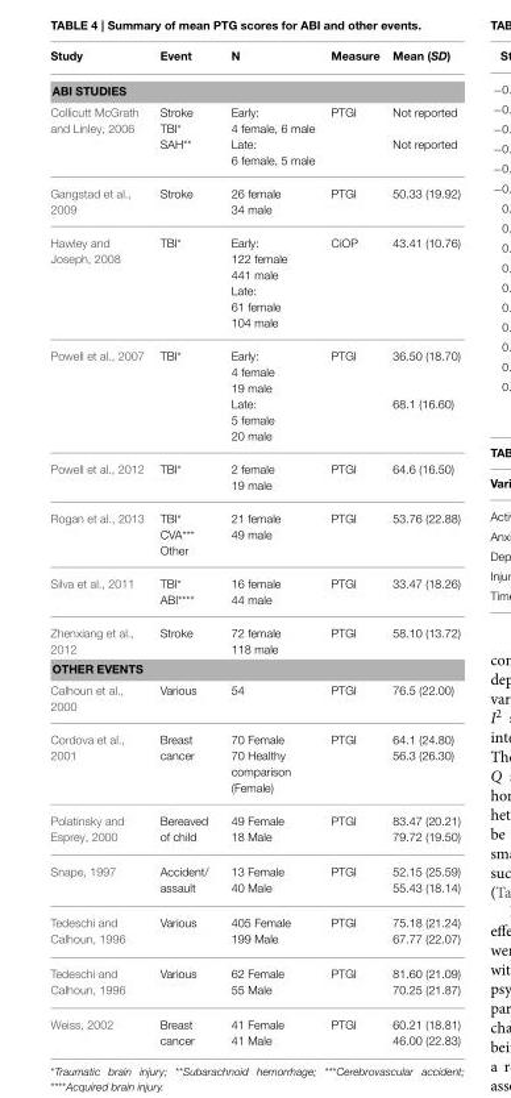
<table><thead><tr><td>Study</td><td>Event</td><td>N</td><td>Measure</td><td>Mean (SD)</td></tr></thead><tbody><tr><td colspan="5">ABI STUDIES</td></tr><tr><td>Collicutt McGrath and Linley, 2006</td><td>Stroke TBI* SAH**</td><td>Early: 4 female, 6 male Late: 6 female, 5 male</td><td>PTGI</td><td>Not reported Not reported</td></tr><tr><td>Gangstad et al., 2009</td><td>Stroke</td><td>26 female 34 male</td><td>PTGI</td><td>50.33 (19.92)</td></tr><tr><td>Hawley and Joseph, 2008</td><td>TBI*</td><td>Early: 122 female 441 male Late: 61 female 104 male</td><td>CiOP</td><td>43.41 (10.76)</td></tr><tr><td>Powell et al., 2007</td><td>TBI*</td><td>Early: 4 female 19 male Late: 5 female 20 male</td><td>PTGI</td><td>36.50 (18.70) 68.1 (16.60)</td></tr><tr><td>Powell et al., 2012</td><td>TBI*</td><td>2 female 19 male</td><td>PTGI</td><td>64.6 (16.50)</td></tr><tr><td>Rogan et al., 2013</td><td>TBI* CVA*** Other</td><td>21 female 49 male</td><td>PTGI</td><td>53.76 (22.88)</td></tr><tr><td>Silva et al., 2011</td><td>TBI* ABI****</td><td>16 female 44 male</td><td>PTGI</td><td>33.47 (18.26)</td></tr><tr><td>Zhenxiang et al., 2012</td><td>Stroke</td><td>72 female 118 male</td><td>PTGI</td><td>58.10 (13.72)</td></tr><tr><td colspan="5">OTHER EVENTS</td></tr><tr><td>Calhoun et al., 2000</td><td>Various</td><td>54</td><td>PTGI</td><td>76.5 (22.00)</td></tr><tr><td>Cordova et al., 2001</td><td>Breast cancer</td><td>70 Female 70 Healthy comparison (Female)</td><td>PTGI</td><td>64.1 (24.80) 56.3 (26.30)</td></tr><tr><td>Polatinsky and Esprey, 2000</td><td>Bereaved of child</td><td>49 Female 18 Male</td><td>PTGI</td><td>83.47 (20.21) 79.72 (19.50)</td></tr><tr><td>Snape, 1997</td><td>Accident/ assault</td><td>13 Female 40 Male</td><td>PTGI</td><td>52.15 (25.59) 55.43 (18.14)</td></tr><tr><td>Tedeschi and Calhoun, 1996</td><td>Various</td><td>405 Female 199 Male</td><td>PTGI</td><td>75.18 (21.24) 67.77 (22.07)</td></tr><tr><td>Tedeschi and Calhoun, 1996</td><td>Various</td><td>62 Female 55 Male</td><td>PTGI</td><td>81.60 (21.09) 70.25 (21.87)</td></tr><tr><td>Weiss, 2002</td><td>Breast cancer</td><td>41 Female 41 Male</td><td>PTGI</td><td>60.21 (18.81) 46.00 (22.83)</td></tr></tbody></table>